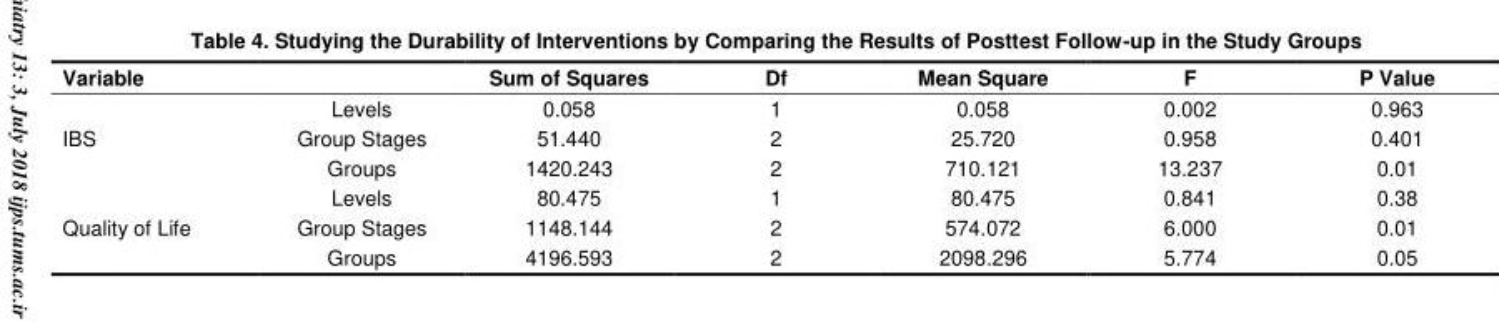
<table><thead><tr><td>Variable</td><td></td><td>Sum of Squares</td><td>Df</td><td>Mean Square</td><td>F</td><td>P Value</td></tr></thead><tbody><tr><td rowspan="3">IBS</td><td>Levels</td><td>0.058</td><td>1</td><td>0.058</td><td>0.002</td><td>0.963</td></tr><tr><td>Group Stages</td><td>51.440</td><td>2</td><td>25.720</td><td>0.958</td><td>0.401</td></tr><tr><td>Groups</td><td>1420.243</td><td>2</td><td>710.121</td><td>13.237</td><td>0.01</td></tr><tr><td rowspan="3">Quality of Life</td><td>Levels</td><td>80.475</td><td>1</td><td>80.475</td><td>0.841</td><td>0.38</td></tr><tr><td>Group Stages</td><td>1148.144</td><td>2</td><td>574.072</td><td>6.000</td><td>0.01</td></tr><tr><td>Groups</td><td>4196.593</td><td>2</td><td>2098.296</td><td>5.774</td><td>0.05</td></tr></tbody></table>